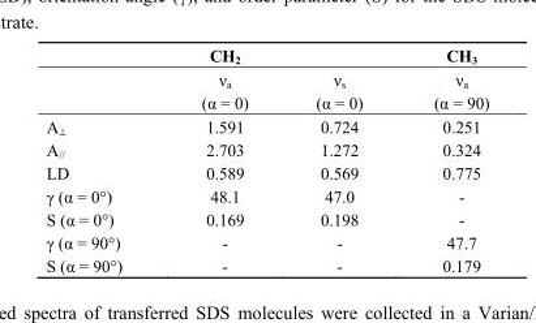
<table><thead><tr><td rowspan="2"></td><td rowspan="2">CH2 νa (α = 0)</td><td rowspan="2">ν<sub>s</sub> (α = 0)</td><td rowspan="2">CH3 νa (α = 90)</td></tr><tr></tr></thead><tbody><tr><td>A<sub>⊥</sub></td><td>1.591</td><td>0.724</td><td>0.251</td></tr><tr><td>A<sub>//</sub></td><td>2.703</td><td>1.272</td><td>0.324</td></tr><tr><td>LD</td><td>0.589</td><td>0.569</td><td>0.775</td></tr><tr><td>γ (α = 0°)</td><td>48.1</td><td>47.0</td><td>-</td></tr><tr><td>S (α = 0°)</td><td>0.169</td><td>0.198</td><td>-</td></tr><tr><td>γ (α = 90°)</td><td>-</td><td>-</td><td>47.7</td></tr><tr><td>S (α = 90°)</td><td>-</td><td>-</td><td>0.179</td></tr></tbody></table>